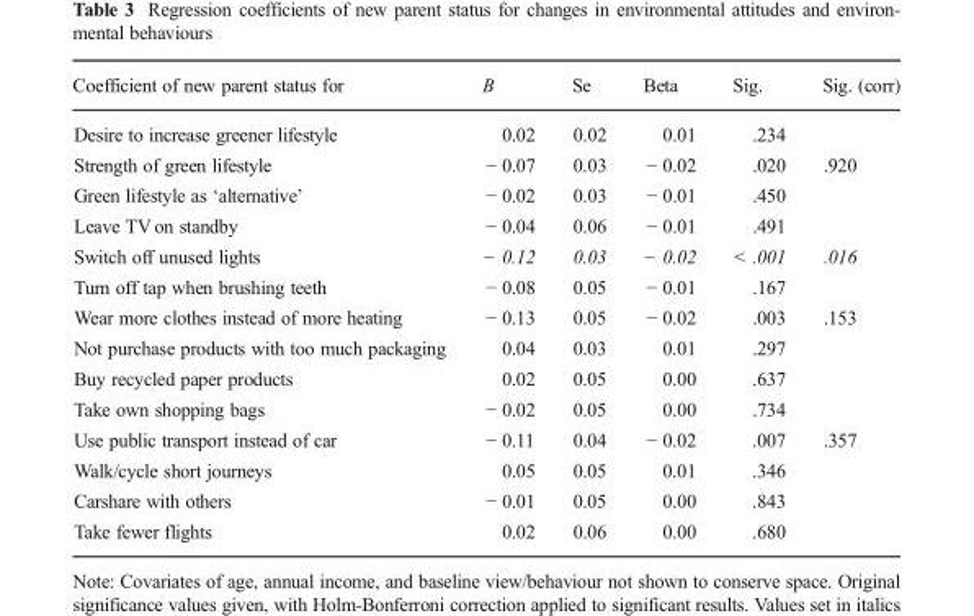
<table><thead><tr><td>Coefficient of new parent status for</td><td>B</td><td>Se</td><td>Beta</td><td>Sig.</td><td>Sig. (corr)</td></tr></thead><tbody><tr><td>Desire to increase greener lifestyle</td><td>0.02</td><td>0.02</td><td>0.01</td><td>.234</td><td></td></tr><tr><td>Strength of green lifestyle</td><td>− 0.07</td><td>0.03</td><td>− 0.02</td><td>.020</td><td>.920</td></tr><tr><td>Green lifestyle as ‘alternative’</td><td>− 0.02</td><td>0.03</td><td>− 0.01</td><td>.450</td><td></td></tr><tr><td>Leave TV on standby</td><td>− 0.04</td><td>0.06</td><td>− 0.01</td><td>.491</td><td></td></tr><tr><td>Switch off unused lights</td><td>− 0.12</td><td>0.03</td><td>− 0.02</td><td>&lt; .001</td><td>.016</td></tr><tr><td>Turn off tap when brushing teeth</td><td>− 0.08</td><td>0.05</td><td>− 0.01</td><td>.167</td><td></td></tr><tr><td>Wear more clothes instead of more heating</td><td>− 0.13</td><td>0.05</td><td>− 0.02</td><td>.003</td><td>.153</td></tr><tr><td>Not purchase products with too much packaging</td><td>0.04</td><td>0.03</td><td>0.01</td><td>.297</td><td></td></tr><tr><td>Buy recycled paper products</td><td>0.02</td><td>0.05</td><td>0.00</td><td>.637</td><td></td></tr><tr><td>Take own shopping bags</td><td>− 0.02</td><td>0.05</td><td>0.00</td><td>.734</td><td></td></tr><tr><td>Use public transport instead of car</td><td>− 0.11</td><td>0.04</td><td>− 0.02</td><td>.007</td><td>.357</td></tr><tr><td>Walk/cycle short journeys</td><td>0.05</td><td>0.05</td><td>0.01</td><td>.346</td><td></td></tr><tr><td>Carshare with others</td><td>− 0.01</td><td>0.05</td><td>0.00</td><td>.843</td><td></td></tr><tr><td>Take fewer flights</td><td>0.02</td><td>0.06</td><td>0.00</td><td>.680</td><td></td></tr></tbody></table>